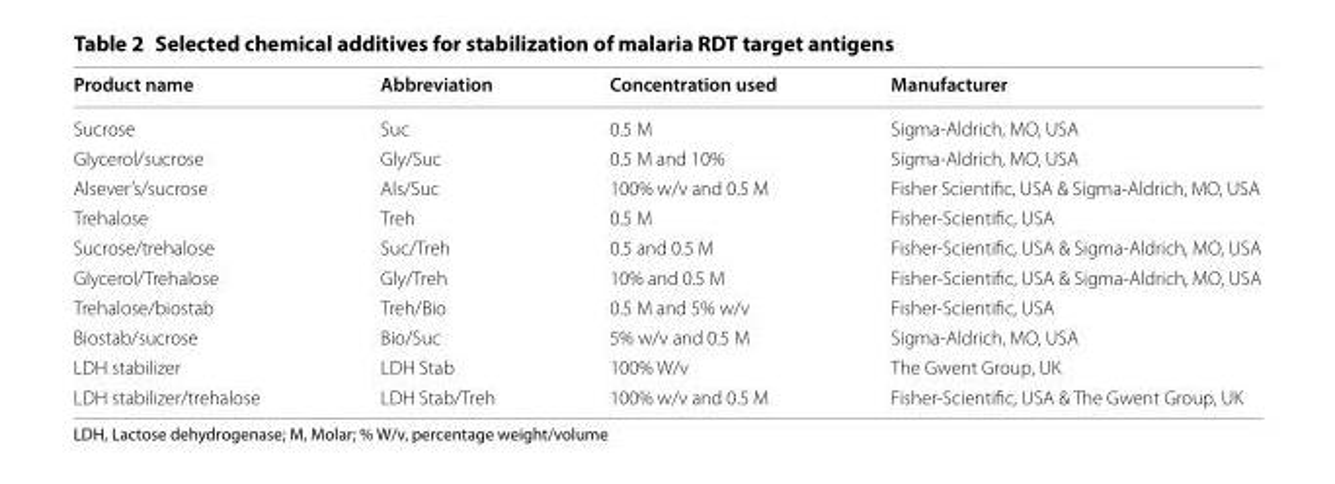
<table><thead><tr><td>Product name</td><td>Abbreviation</td><td>Concentration used</td><td>Manufacturer</td></tr></thead><tbody><tr><td>Sucrose</td><td>Suc</td><td>0.5 M</td><td>Sigma-Aldrich, MO, USA</td></tr><tr><td>Glycerol/sucrose</td><td>Gly/Suc</td><td>0.5 M and 10%</td><td>Sigma-Aldrich, MO, USA</td></tr><tr><td>Alsever’s/sucrose</td><td>Als/Suc</td><td>100% w/v and 0.5 M</td><td>Fisher Scientific, USA &amp; Sigma-Aldrich, MO, USA</td></tr><tr><td>Trehalose</td><td>Treh</td><td>0.5 M</td><td>Fisher-Scientific, USA</td></tr><tr><td>Sucrose/trehalose</td><td>Suc/Treh</td><td>0.5 and 0.5 M</td><td>Fisher-Scientific, USA &amp; Sigma-Aldrich, MO, USA</td></tr><tr><td>Glycerol/Trehalose</td><td>Gly/Treh</td><td>10% and 0.5 M</td><td>Fisher-Scientific, USA &amp; Sigma-Aldrich, MO, USA</td></tr><tr><td>Trehalose/biostab</td><td>Treh/Bio</td><td>0.5 M and 5% w/v</td><td>Fisher-Scientific, USA</td></tr><tr><td>Biostab/sucrose</td><td>Bio/Suc</td><td>5% w/v and 0.5 M</td><td>Sigma-Aldrich, MO, USA</td></tr><tr><td>LDH stabilizer</td><td>LDH Stab</td><td>100% W/v</td><td>The Gwent Group, UK</td></tr><tr><td>LDH stabilizer/trehalose</td><td>LDH Stab/Treh</td><td>100% w/v and 0.5 M</td><td>Fisher-Scientific, USA &amp; The Gwent Group, UK</td></tr></tbody></table>